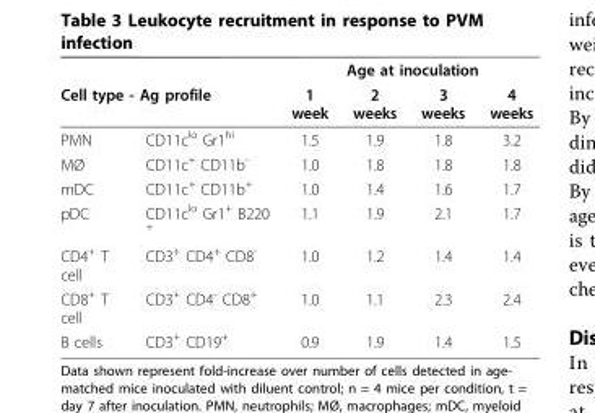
<table><thead><tr><td></td><td></td><td colspan="4">Age at inoculation</td></tr><tr><td colspan="2">Cell type - Ag profile</td><td>1 week</td><td>2 weeks</td><td>3 weeks</td><td>4 weeks</td></tr></thead><tbody><tr><td>PMN</td><td>CD11c<sup>lo</sup> Gr1<sup>hi</sup></td><td>1.5</td><td>1.9</td><td>1.8</td><td>3.2</td></tr><tr><td>MØ</td><td>CD11c<sup>+</sup> CD11b<sup>-</sup></td><td>1.0</td><td>1.8</td><td>1.8</td><td>1.8</td></tr><tr><td>mDC</td><td>CD11c<sup>+</sup> CD11b<sup>+</sup></td><td>1.0</td><td>1.4</td><td>1.6</td><td>1.7</td></tr><tr><td>pDC</td><td>CD11c<sup>lo</sup> Gr1<sup>+</sup> B220 <sup>+</sup></td><td>1.1</td><td>1.9</td><td>2.1</td><td>1.7</td></tr><tr><td>CD4<sup>+</sup> T cell</td><td>CD3<sup>+</sup> CD4<sup>+</sup> CD8<sup>-</sup></td><td>1.0</td><td>1.2</td><td>1.4</td><td>1.4</td></tr><tr><td>CD8<sup>+</sup> T cell</td><td>CD3<sup>+</sup> CD4<sup>-</sup> CD8<sup>+</sup></td><td>1.0</td><td>1.1</td><td>2.3</td><td>2.4</td></tr><tr><td>B cells</td><td>CD3<sup>+</sup> CD19<sup>+</sup></td><td>0.9</td><td>1.9</td><td>1.4</td><td>1.5</td></tr></tbody></table>